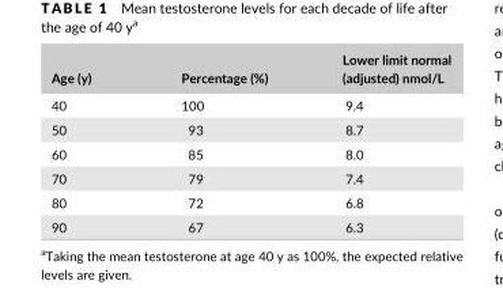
<table><thead><tr><td>Age (y)</td><td>Percentage (%)</td><td>Lower limit normal (adjusted) nmol/L</td></tr></thead><tbody><tr><td>40</td><td>100</td><td>9.4</td></tr><tr><td>50</td><td>93</td><td>8.7</td></tr><tr><td>60</td><td>85</td><td>8.0</td></tr><tr><td>70</td><td>79</td><td>7.4</td></tr><tr><td>80</td><td>72</td><td>6.8</td></tr><tr><td>90</td><td>67</td><td>6.3</td></tr></tbody></table>